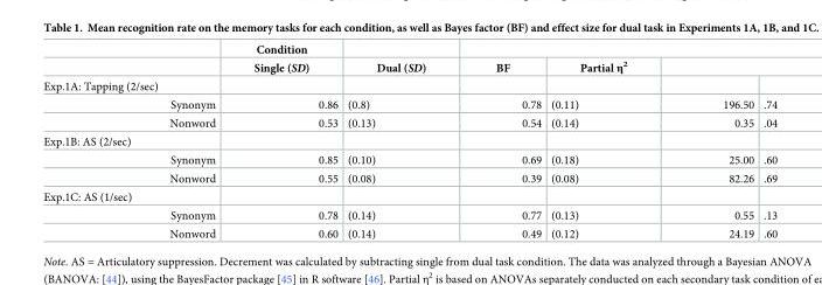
<table><thead><tr><td rowspan="2"></td><td rowspan="2">Condition Single (SD)</td><td rowspan="2">Dual (SD)</td><td rowspan="2">BF</td><td rowspan="2">Partial η<sup>2</sup></td><td rowspan="2"></td><td rowspan="2"></td></tr><tr></tr></thead><tbody><tr><td colspan="7">Exp.1A: Tapping (2/sec)</td></tr><tr><td>Synonym</td><td>0.86</td><td>(0.8)</td><td>0.78</td><td>(0.11)</td><td>196.50</td><td>.74</td></tr><tr><td>Nonword</td><td>0.53</td><td>(0.13)</td><td>0.54</td><td>(0.14)</td><td>0.35</td><td>.04</td></tr><tr><td colspan="7">Exp.1B: AS (2/sec)</td></tr><tr><td>Synonym</td><td>0.85</td><td>(0.10)</td><td>0.69</td><td>(0.18)</td><td>25.00</td><td>.60</td></tr><tr><td>Nonword</td><td>0.55</td><td>(0.08)</td><td>0.39</td><td>(0.08)</td><td>82.26</td><td>.69</td></tr><tr><td colspan="7">Exp.1C: AS (1/sec)</td></tr><tr><td>Synonym</td><td>0.78</td><td>(0.14)</td><td>0.77</td><td>(0.13)</td><td>0.55</td><td>.13</td></tr><tr><td>Nonword</td><td>0.60</td><td>(0.14)</td><td>0.49</td><td>(0.12)</td><td>24.19</td><td>.60</td></tr></tbody></table>